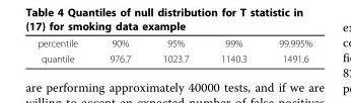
<table><tbody><tr><td>percentile</td><td>90%</td><td>95%</td><td>99%</td><td>99.995%</td></tr><tr><td>quantile</td><td>976.7</td><td>1023.7</td><td>1140.3</td><td>1491.6</td></tr></tbody></table>